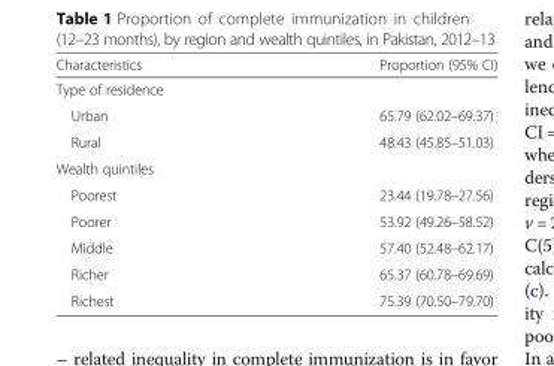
<table><thead><tr><td>Characteristics</td><td>Proportion (95% CI)</td></tr></thead><tbody><tr><td colspan="2">Type of residence</td></tr><tr><td>Urban</td><td>65.79 (62.02–69.37)</td></tr><tr><td>Rural</td><td>48.43 (45.85–51.03)</td></tr><tr><td colspan="2">Wealth quintiles</td></tr><tr><td>Poorest</td><td>23.44 (19.78–27.56)</td></tr><tr><td>Poorer</td><td>53.92 (49.26–58.52)</td></tr><tr><td>Middle</td><td>57.40 (52.48–62.17)</td></tr><tr><td>Richer</td><td>65.37 (60.78–69.69)</td></tr><tr><td>Richest</td><td>75.39 (70.50–79.70)</td></tr></tbody></table>